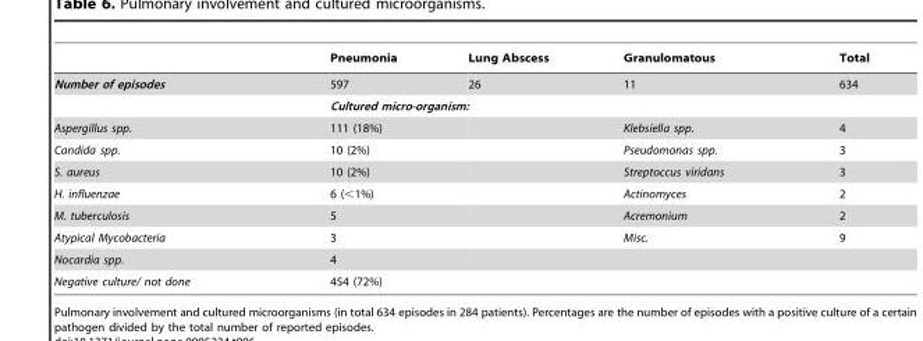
<table><thead><tr><td></td><td>Pneumonia</td><td>Lung Abscess</td><td>Granulomatous</td><td>Total</td></tr></thead><tbody><tr><td rowspan="2">Number of episodes</td><td>597</td><td>26</td><td>11</td><td>634</td></tr><tr><td colspan="3">Cultured micro-organism:</td><td></td></tr><tr><td>Aspergillus spp.</td><td>111 (18%)</td><td></td><td>Klebsiella spp.</td><td>4</td></tr><tr><td>Candida spp.</td><td>10 (2%)</td><td></td><td>Pseudomonas spp.</td><td>3</td></tr><tr><td>S. aureus</td><td>10 (2%)</td><td></td><td>Streptoccus viridans</td><td>3</td></tr><tr><td>H. influenzae</td><td>6 (&lt;1%)</td><td></td><td>Actinomyces</td><td>2</td></tr><tr><td>M. tuberculosis</td><td>5</td><td></td><td>Acremonium</td><td>2</td></tr><tr><td>Atypical Mycobacteria</td><td>3</td><td></td><td>Misc.</td><td>9</td></tr><tr><td>Nocardia spp.</td><td>4</td><td></td><td></td><td></td></tr><tr><td>Negative culture/ not done</td><td>454 (72%)</td><td></td><td></td><td></td></tr></tbody></table>